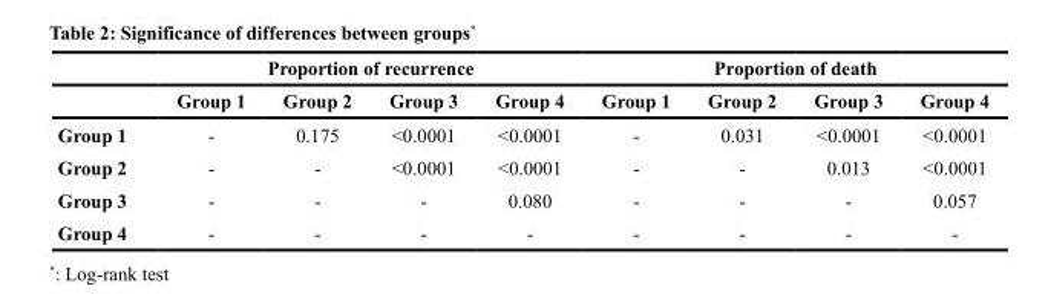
<table><thead><tr><td rowspan="2"></td><td colspan="4">Proportion of recurrence</td><td colspan="4">Proportion of death</td></tr><tr><td>Group 1</td><td>Group 2</td><td>Group 3</td><td>Group 4</td><td>Group 1</td><td>Group 2</td><td>Group 3</td><td>Group 4</td></tr></thead><tbody><tr><td>Group 1</td><td>-</td><td>0.175</td><td>&lt;0.0001</td><td>&lt;0.0001</td><td>-</td><td>0.031</td><td>&lt;0.0001</td><td>&lt;0.0001</td></tr><tr><td>Group 2</td><td>-</td><td>-</td><td>&lt;0.0001</td><td>&lt;0.0001</td><td>-</td><td>-</td><td>0.013</td><td>&lt;0.0001</td></tr><tr><td>Group 3</td><td>-</td><td>-</td><td>-</td><td>0.080</td><td>-</td><td>-</td><td>-</td><td>0.057</td></tr><tr><td>Group 4</td><td>-</td><td>-</td><td>-</td><td>-</td><td>-</td><td>-</td><td>-</td><td>-</td></tr></tbody></table>